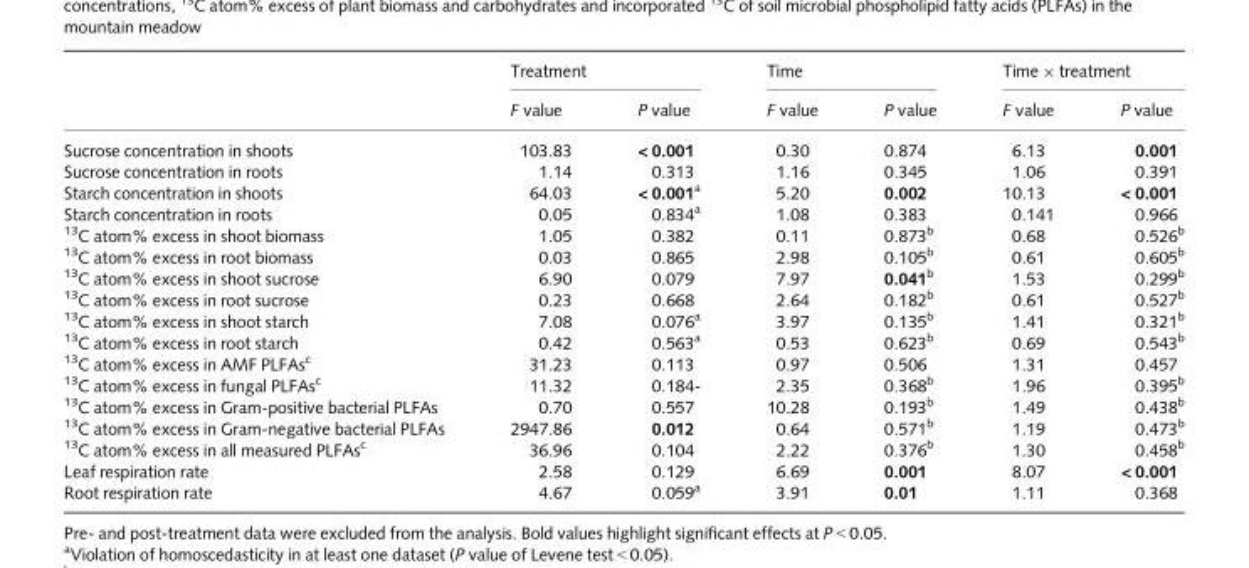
<table><thead><tr><td rowspan="2"></td><td colspan="2">Treatment</td><td colspan="2">Time</td><td colspan="2">Time × treatment</td></tr><tr><td>F value</td><td>P value</td><td>F value</td><td>P value</td><td>F value</td><td>P value</td></tr></thead><tbody><tr><td>Sucrose concentration in shoots</td><td>103.83</td><td>&lt; 0.001</td><td>0.30</td><td>0.874</td><td>6.13</td><td>0.001</td></tr><tr><td>Sucrose concentration in roots</td><td>1.14</td><td>0.313</td><td>1.16</td><td>0.345</td><td>1.06</td><td>0.391</td></tr><tr><td>Starch concentration in shoots</td><td>64.03</td><td>&lt; 0.001<sup>a</sup></td><td>5.20</td><td>0.002</td><td>10.13</td><td>&lt; 0.001</td></tr><tr><td>Starch concentration in roots</td><td>0.05</td><td>0.834<sup>a</sup></td><td>1.08</td><td>0.383</td><td>0.141</td><td>0.966</td></tr><tr><td><sup>13</sup>C atom% excess in shoot biomass</td><td>1.05</td><td>0.382</td><td>0.11</td><td>0.873<sup>b</sup></td><td>0.68</td><td>0.526<sup>b</sup></td></tr><tr><td><sup>13</sup>C atom% excess in root biomass</td><td>0.03</td><td>0.865</td><td>2.98</td><td>0.105<sup>b</sup></td><td>0.61</td><td>0.605<sup>b</sup></td></tr><tr><td><sup>13</sup>C atom% excess in shoot sucrose</td><td>6.90</td><td>0.079</td><td>7.97</td><td>0.041<sup>b</sup></td><td>1.53</td><td>0.299<sup>b</sup></td></tr><tr><td><sup>13</sup>C atom% excess in root sucrose</td><td>0.23</td><td>0.668</td><td>2.64</td><td>0.182<sup>b</sup></td><td>0.61</td><td>0.527<sup>b</sup></td></tr><tr><td><sup>13</sup>C atom% excess in shoot starch</td><td>7.08</td><td>0.076<sup>a</sup></td><td>3.97</td><td>0.135<sup>b</sup></td><td>1.41</td><td>0.321<sup>b</sup></td></tr><tr><td><sup>13</sup>C atom% excess in root starch</td><td>0.42</td><td>0.563<sup>a</sup></td><td>0.53</td><td>0.623<sup>b</sup></td><td>0.69</td><td>0.543<sup>b</sup></td></tr><tr><td><sup>13</sup>C atom% excess in AMF PLFAs<sup>c</sup></td><td>31.23</td><td>0.113</td><td>0.97</td><td>0.506</td><td>1.31</td><td>0.457</td></tr><tr><td><sup>13</sup>C atom% excess in fungal PLFAs<sup>c</sup></td><td>11.32</td><td>0.184-</td><td>2.35</td><td>0.368<sup>b</sup></td><td>1.96</td><td>0.395<sup>b</sup></td></tr><tr><td><sup>13</sup>C atom% excess in Gram-positive bacterial PLFAs</td><td>0.70</td><td>0.557</td><td>10.28</td><td>0.193<sup>b</sup></td><td>1.49</td><td>0.438<sup>b</sup></td></tr><tr><td><sup>13</sup>C atom% excess in Gram-negative bacterial PLFAs</td><td>2947.86</td><td>0.012</td><td>0.64</td><td>0.571<sup>b</sup></td><td>1.19</td><td>0.473<sup>b</sup></td></tr><tr><td><sup>13</sup>C atom% excess in all measured PLFAs<sup>c</sup></td><td>36.96</td><td>0.104</td><td>2.22</td><td>0.376<sup>b</sup></td><td>1.30</td><td>0.458<sup>b</sup></td></tr><tr><td>Leaf respiration rate</td><td>2.58</td><td>0.129</td><td>6.69</td><td>0.001</td><td>8.07</td><td>&lt; 0.001</td></tr><tr><td>Root respiration rate</td><td>4.67</td><td>0.059<sup>a</sup></td><td>3.91</td><td>0.01</td><td>1.11</td><td>0.368</td></tr></tbody></table>